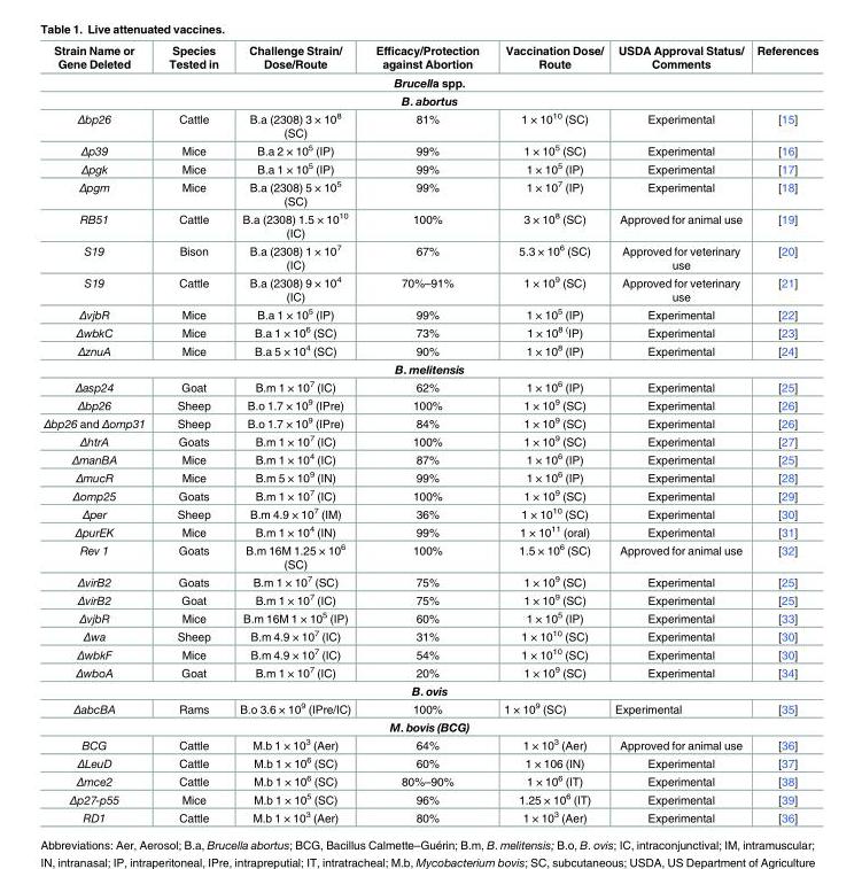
<table><thead><tr><td>Strain Name or Gene Deleted</td><td>Species Tested in</td><td>Challenge Strain/ Dose/Route</td><td>Efficacy/Protection against Abortion</td><td>Vaccination Dose/ Route</td><td>USDA Approval Status/ Comments</td><td>References</td></tr></thead><tbody><tr><td colspan="7">Brucella spp.</td></tr><tr><td colspan="7">B. abortus</td></tr><tr><td>Δbp26</td><td>Cattle</td><td>B.a (2308) 3 × 10<sup>8</sup> (SC)</td><td>81%</td><td>1 × 10<sup>10</sup> (SC)</td><td>Experimental</td><td>[15]</td></tr><tr><td>Δp39</td><td>Mice</td><td>B.a 2 × 10<sup>5</sup> (IP)</td><td>99%</td><td>1 × 10<sup>5</sup> (SC)</td><td>Experimental</td><td>[16]</td></tr><tr><td>Δpgk</td><td>Mice</td><td>B.a 1 × 10<sup>5</sup> (IP)</td><td>99%</td><td>1 × 10<sup>5</sup> (IP)</td><td>Experimental</td><td>[17]</td></tr><tr><td>Δpgm</td><td>Mice</td><td>B.a (2308) 5 × 10<sup>5</sup> (SC)</td><td>99%</td><td>1 × 10<sup>7</sup> (IP)</td><td>Experimental</td><td>[18]</td></tr><tr><td>RB51</td><td>Cattle</td><td>B.a (2308) 1.5 × 10<sup>10</sup> (IC)</td><td>100%</td><td>3 × 10<sup>8</sup> (SC)</td><td>Approved for animal use</td><td>[19]</td></tr><tr><td>S19</td><td>Bison</td><td>B.a (2308) 1 × 10<sup>7</sup> (IC)</td><td>67%</td><td>5.3 × 10<sup>6</sup> (SC)</td><td>Approved for veterinary use</td><td>[20]</td></tr><tr><td>S19</td><td>Cattle</td><td>B.a (2308) 9 × 10<sup>4</sup> (IC)</td><td>70%–91%</td><td>1 × 10<sup>9</sup> (SC)</td><td>Approved for veterinary use</td><td>[21]</td></tr><tr><td>ΔvjbR</td><td>Mice</td><td>B.a 1 × 10<sup>5</sup> (IP)</td><td>99%</td><td>1 × 10<sup>5</sup> (IP)</td><td>Experimental</td><td>[22]</td></tr><tr><td>ΔwbkC</td><td>Mice</td><td>B.a 1 × 10<sup>6</sup> (SC)</td><td>73%</td><td>1 × 10<sup>8 (</sup>IP)</td><td>Experimental</td><td>[23]</td></tr><tr><td>ΔznuA</td><td>Mice</td><td>B.a 5 × 10<sup>4</sup> (SC)</td><td>90%</td><td>1 × 10<sup>8</sup> (IP)</td><td>Experimental</td><td>[24]</td></tr><tr><td colspan="7">B. melitensis</td></tr><tr><td>Δasp24</td><td>Goat</td><td>B.m 1 × 10<sup>7</sup> (IC)</td><td>62%</td><td>1 × 10<sup>6</sup> (IP)</td><td>Experimental</td><td>[25]</td></tr><tr><td>Δbp26</td><td>Sheep</td><td>B.o 1.7 × 10<sup>9</sup> (IPre)</td><td>100%</td><td>1 × 10<sup>9</sup> (SC)</td><td>Experimental</td><td>[26]</td></tr><tr><td>Δbp26 and Δomp31</td><td>Sheep</td><td>B.o 1.7 × 10<sup>9</sup> (IPre)</td><td>84%</td><td>1 × 10<sup>9</sup> (SC)</td><td>Experimental</td><td>[26]</td></tr><tr><td>ΔhtrA</td><td>Goats</td><td>B.m 1 × 10<sup>7</sup> (IC)</td><td>100%</td><td>1 × 10<sup>9</sup> (SC)</td><td>Experimental</td><td>[27]</td></tr><tr><td>ΔmanBA</td><td>Mice</td><td>B.m 1 × 10<sup>4</sup> (IC)</td><td>87%</td><td>1 × 10<sup>6</sup> (IP)</td><td>Experimental</td><td>[25]</td></tr><tr><td>ΔmucR</td><td>Mice</td><td>B.m 5 × 10<sup>9</sup> (IN)</td><td>99%</td><td>1 × 10<sup>6</sup> (IP)</td><td>Experimental</td><td>[28]</td></tr><tr><td>Δomp25</td><td>Goats</td><td>B.m 1 × 10<sup>7</sup> (IC)</td><td>100%</td><td>1 × 10<sup>9</sup> (SC)</td><td>Experimental</td><td>[29]</td></tr><tr><td>Δper</td><td>Sheep</td><td>B.m 4.9 × 10<sup>7</sup> (IM)</td><td>36%</td><td>1 × 10<sup>10</sup> (SC)</td><td>Experimental</td><td>[30]</td></tr><tr><td>ΔpurEK</td><td>Mice</td><td>B.m 1 × 10<sup>4</sup> (IN)</td><td>99%</td><td>1 × 10<sup>11</sup> (oral)</td><td>Experimental</td><td>[31]</td></tr><tr><td>Rev 1</td><td>Goats</td><td>B.m 16M 1.25 × 10<sup>6</sup> (SC)</td><td>100%</td><td>1.5 × 10<sup>6</sup> (SC)</td><td>Approved for animal use</td><td>[32]</td></tr><tr><td>ΔvirB2</td><td>Goats</td><td>B.m 1 × 10<sup>7</sup> (SC)</td><td>75%</td><td>1 × 10<sup>9</sup> (SC)</td><td>Experimental</td><td>[25]</td></tr><tr><td>ΔvirB2</td><td>Goat</td><td>B.m 1 × 10<sup>7</sup> (IC)</td><td>75%</td><td>1 × 10<sup>9</sup> (SC)</td><td>Experimental</td><td>[25]</td></tr><tr><td>ΔvjbR</td><td>Mice</td><td>B.m 16M 1 × 10<sup>5</sup> (IP)</td><td>60%</td><td>1 × 10<sup>5</sup> (IP)</td><td>Experimental</td><td>[33]</td></tr><tr><td>Δwa</td><td>Sheep</td><td>B.m 4.9 × 10<sup>7</sup> (IC)</td><td>31%</td><td>1 × 10<sup>10</sup> (SC)</td><td>Experimental</td><td>[30]</td></tr><tr><td>ΔwbkF</td><td>Mice</td><td>B.m 4.9 × 10<sup>7</sup> (IC)</td><td>54%</td><td>1 × 10<sup>10</sup> (SC)</td><td>Experimental</td><td>[30]</td></tr><tr><td>ΔwboA</td><td>Goat</td><td>B.m 1 × 10<sup>7</sup> (IC)</td><td>20%</td><td>1 × 10<sup>9</sup> (SC)</td><td>Experimental</td><td>[34]</td></tr><tr><td colspan="7">B. ovis</td></tr><tr><td>ΔabcBA</td><td>Rams</td><td>B.o 3.6 × 10<sup>9</sup> (IPre/IC)</td><td>100%</td><td>1 × 10<sup>9</sup> (SC)</td><td>Experimental</td><td>[35]</td></tr><tr><td colspan="7">M. bovis (BCG)</td></tr><tr><td>BCG</td><td>Cattle</td><td>M.b 1 × 10<sup>3</sup> (Aer)</td><td>64%</td><td>1 × 10<sup>3</sup> (Aer)</td><td>Approved for animal use</td><td>[36]</td></tr><tr><td>ΔLeuD</td><td>Cattle</td><td>M.b 1 × 10<sup>6</sup> (SC)</td><td>60%</td><td>1 × 106 (IN)</td><td>Experimental</td><td>[37]</td></tr><tr><td>Δmce2</td><td>Cattle</td><td>M.b 1 × 10<sup>6</sup> (SC)</td><td>80%–90%</td><td>1 × 10<sup>6</sup> (IT)</td><td>Experimental</td><td>[38]</td></tr><tr><td>Δp27-p55</td><td>Mice</td><td>M.b 1 × 10<sup>5</sup> (SC)</td><td>96%</td><td>1.25 × 10<sup>6</sup> (IT)</td><td>Experimental</td><td>[39]</td></tr><tr><td>RD1</td><td>Cattle</td><td>M.b 1 × 10<sup>3</sup> (Aer)</td><td>80%</td><td>1 × 10<sup>3</sup> (Aer)</td><td>Experimental</td><td>[36]</td></tr></tbody></table>